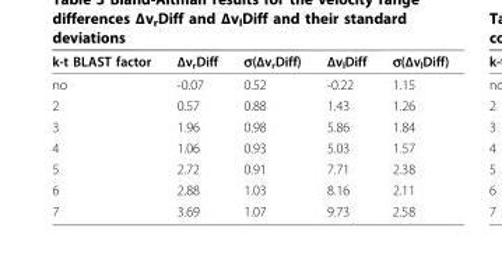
<table><thead><tr><td>k-t BLAST factor</td><td>Δv<sub>r</sub>Diff</td><td>σ(Δv<sub>r</sub>Diff)</td><td>Δv<sub>l</sub>Diff</td><td>σ(Δv<sub>l</sub>Diff)</td></tr></thead><tbody><tr><td>no</td><td>-0.07</td><td>0.52</td><td>-0.22</td><td>1.15</td></tr><tr><td>2</td><td>0.57</td><td>0.88</td><td>1.43</td><td>1.26</td></tr><tr><td>3</td><td>1.96</td><td>0.98</td><td>5.86</td><td>1.84</td></tr><tr><td>4</td><td>1.06</td><td>0.93</td><td>5.03</td><td>1.57</td></tr><tr><td>5</td><td>2.72</td><td>0.91</td><td>7.71</td><td>2.38</td></tr><tr><td>6</td><td>2.88</td><td>1.03</td><td>8.16</td><td>2.11</td></tr><tr><td>7</td><td>3.69</td><td>1.07</td><td>9.73</td><td>2.58</td></tr></tbody></table>